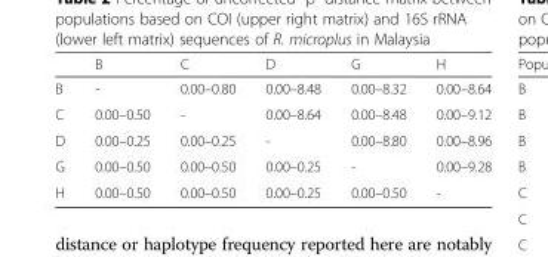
<table><thead><tr><td></td><td>B</td><td>C</td><td>D</td><td>G</td><td>H</td></tr></thead><tbody><tr><td>B</td><td>-</td><td>0.00–0.80</td><td>0.00–8.48</td><td>0.00–8.32</td><td>0.00–8.64</td></tr><tr><td>C</td><td>0.00–0.50</td><td>-</td><td>0.00–8.64</td><td>0.00–8.48</td><td>0.00–9.12</td></tr><tr><td>D</td><td>0.00–0.25</td><td>0.00–0.25</td><td>-</td><td>0.00–8.80</td><td>0.00–8.96</td></tr><tr><td>G</td><td>0.00–0.50</td><td>0.00–0.50</td><td>0.00–0.25</td><td>-</td><td>0.00–9.28</td></tr><tr><td>H</td><td>0.00–0.50</td><td>0.00–0.50</td><td>0.00–0.25</td><td>0.00–0.50</td><td>-</td></tr></tbody></table>